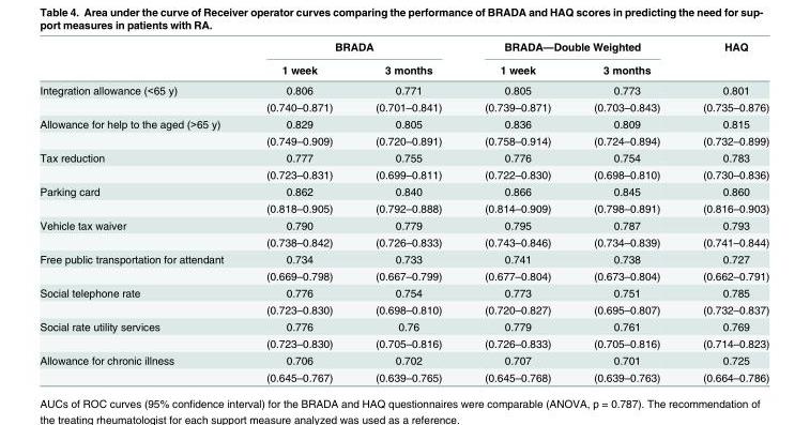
<table><thead><tr><td rowspan="2"></td><td colspan="2">BRADA</td><td colspan="2">BRADA—Double Weighted</td><td rowspan="2">HAQ</td></tr><tr><td>1 week</td><td>3 months</td><td>1 week</td><td>3 months</td></tr></thead><tbody><tr><td rowspan="2">Integration allowance (&lt;65 y)</td><td>0.806</td><td>0.771</td><td>0.805</td><td>0.773</td><td>0.801</td></tr><tr><td>(0.740–0.871)</td><td>(0.701–0.841)</td><td>(0.739–0.871)</td><td>(0.703–0.843)</td><td>(0.735–0.876)</td></tr><tr><td rowspan="2">Allowance for help to the aged (&gt;65 y)</td><td>0.829</td><td>0.805</td><td>0.836</td><td>0.809</td><td>0.815</td></tr><tr><td>(0.749–0.909)</td><td>(0.720–0.891)</td><td>(0.758–0.914)</td><td>(0.724–0.894)</td><td>(0.732–0.899)</td></tr><tr><td rowspan="2">Tax reduction</td><td>0.777</td><td>0.755</td><td>0.776</td><td>0.754</td><td>0.783</td></tr><tr><td>(0.723–0.831)</td><td>(0.699–0.811)</td><td>(0.722–0.830)</td><td>(0.698–0.810)</td><td>(0.730–0.836)</td></tr><tr><td rowspan="2">Parking card</td><td>0.862</td><td>0.840</td><td>0.866</td><td>0.845</td><td>0.860</td></tr><tr><td>(0.818–0.905)</td><td>(0.792–0.888)</td><td>(0.814–0.909)</td><td>(0.798–0.891)</td><td>(0.816–0.903)</td></tr><tr><td rowspan="2">Vehicle tax waiver</td><td>0.790</td><td>0.779</td><td>0.795</td><td>0.787</td><td>0.793</td></tr><tr><td>(0.738–0.842)</td><td>(0.726–0.833)</td><td>(0.743–0.846)</td><td>(0.734–0.839)</td><td>(0.741–0.844)</td></tr><tr><td rowspan="2">Free public transportation for attendant</td><td>0.734</td><td>0.733</td><td>0.741</td><td>0.738</td><td>0.727</td></tr><tr><td>(0.669–0.798)</td><td>(0.667–0.799)</td><td>(0.677–0.804)</td><td>(0.673–0.804)</td><td>(0.662–0.791)</td></tr><tr><td rowspan="2">Social telephone rate</td><td>0.776</td><td>0.754</td><td>0.773</td><td>0.751</td><td>0.785</td></tr><tr><td>(0.723–0.830)</td><td>(0.698–0.810)</td><td>(0.720–0.827)</td><td>(0.695–0.807)</td><td>(0.732–0.837)</td></tr><tr><td rowspan="2">Social rate utility services</td><td>0.776</td><td>0.76</td><td>0.779</td><td>0.761</td><td>0.769</td></tr><tr><td>(0.723–0.830)</td><td>(0.705–0.816)</td><td>(0.726–0.833)</td><td>(0.705–0.816)</td><td>(0.714–0.823)</td></tr><tr><td rowspan="2">Allowance for chronic illness</td><td>0.706</td><td>0.702</td><td>0.707</td><td>0.701</td><td>0.725</td></tr><tr><td>(0.645–0.767)</td><td>(0.639–0.765)</td><td>(0.645–0.768)</td><td>(0.639–0.763)</td><td>(0.664–0.786)</td></tr></tbody></table>